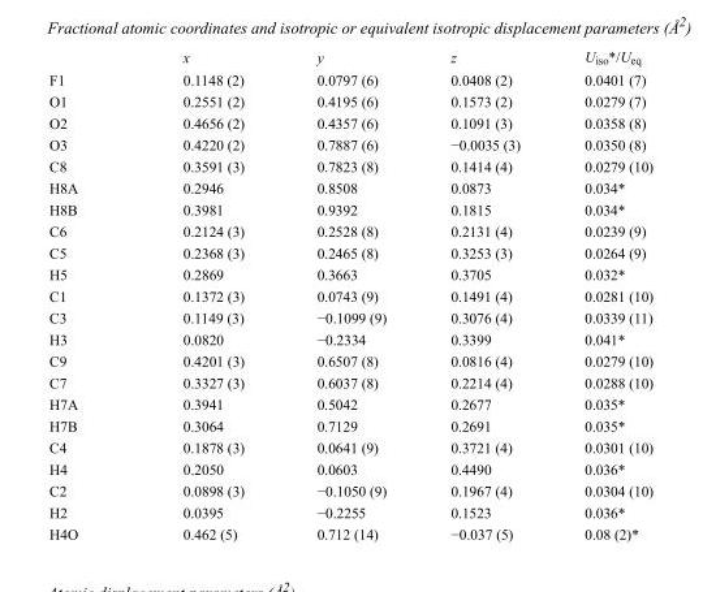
<table><thead><tr><td></td><td>x</td><td>y</td><td>z</td><td>U<sub>iso</sub>*/U<sub>eq</sub></td></tr></thead><tbody><tr><td>F1</td><td>0.1148 (2)</td><td>0.0797 (6)</td><td>0.0408 (2)</td><td>0.0401 (7)</td></tr><tr><td>O1</td><td>0.2551 (2)</td><td>0.4195 (6)</td><td>0.1573 (2)</td><td>0.0279 (7)</td></tr><tr><td>O2</td><td>0.4656 (2)</td><td>0.4357 (6)</td><td>0.1091 (3)</td><td>0.0358 (8)</td></tr><tr><td>O3</td><td>0.4220 (2)</td><td>0.7887 (6)</td><td>−0.0035 (3)</td><td>0.0350 (8)</td></tr><tr><td>C8</td><td>0.3591 (3)</td><td>0.7823 (8)</td><td>0.1414 (4)</td><td>0.0279 (10)</td></tr><tr><td>H8A</td><td>0.2946</td><td>0.8508</td><td>0.0873</td><td>0.034*</td></tr><tr><td>H8B</td><td>0.3981</td><td>0.9392</td><td>0.1815</td><td>0.034*</td></tr><tr><td>C6</td><td>0.2124 (3)</td><td>0.2528 (8)</td><td>0.2131 (4)</td><td>0.0239 (9)</td></tr><tr><td>C5</td><td>0.2368 (3)</td><td>0.2465 (8)</td><td>0.3253 (3)</td><td>0.0264 (9)</td></tr><tr><td>H5</td><td>0.2869</td><td>0.3663</td><td>0.3705</td><td>0.032*</td></tr><tr><td>C1</td><td>0.1372 (3)</td><td>0.0743 (9)</td><td>0.1491 (4)</td><td>0.0281 (10)</td></tr><tr><td>C3</td><td>0.1149 (3)</td><td>−0.1099 (9)</td><td>0.3076 (4)</td><td>0.0339 (11)</td></tr><tr><td>H3</td><td>0.0820</td><td>−0.2334</td><td>0.3399</td><td>0.041*</td></tr><tr><td>C9</td><td>0.4201 (3)</td><td>0.6507 (8)</td><td>0.0816 (4)</td><td>0.0279 (10)</td></tr><tr><td>C7</td><td>0.3327 (3)</td><td>0.6037 (8)</td><td>0.2214 (4)</td><td>0.0288 (10)</td></tr><tr><td>H7A</td><td>0.3941</td><td>0.5042</td><td>0.2677</td><td>0.035*</td></tr><tr><td>H7B</td><td>0.3064</td><td>0.7129</td><td>0.2691</td><td>0.035*</td></tr><tr><td>C4</td><td>0.1878 (3)</td><td>0.0641 (9)</td><td>0.3721 (4)</td><td>0.0301 (10)</td></tr><tr><td>H4</td><td>0.2050</td><td>0.0603</td><td>0.4490</td><td>0.036*</td></tr><tr><td>C2</td><td>0.0898 (3)</td><td>−0.1050 (9)</td><td>0.1967 (4)</td><td>0.0304 (10)</td></tr><tr><td>H2</td><td>0.0395</td><td>−0.2255</td><td>0.1523</td><td>0.036*</td></tr><tr><td>H4O</td><td>0.462 (5)</td><td>0.712 (14)</td><td>−0.037 (5)</td><td>0.08 (2)*</td></tr></tbody></table>